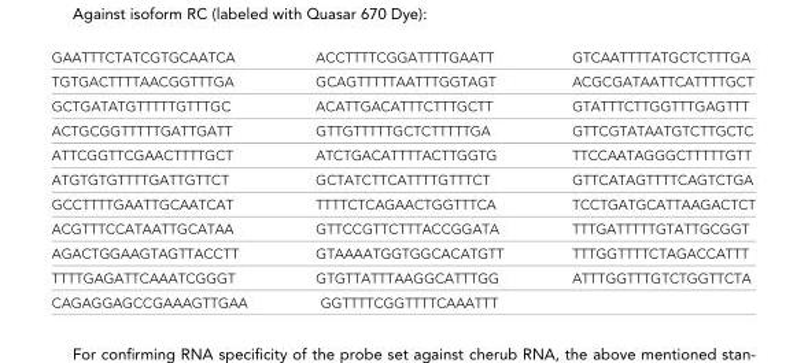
<table><tbody><tr><td>GAATTTCTATCGTGCAATCA</td><td>ACCTTTTCGGATTTTGAATT</td><td>GTCAATTTTATGCTCTTTGA</td></tr><tr><td>TGTGACTTTTAACGGTTTGA</td><td>GCAGTTTTTAATTTGGTAGT</td><td>ACGCGATAATTCATTTTGCT</td></tr><tr><td>GCTGATATGTTTTTGTTTGC</td><td>ACATTGACATTTCTTTGCTT</td><td>GTATTTCTTGGTTTGAGTTT</td></tr><tr><td>ACTGCGGTTTTTGATTGATT</td><td>GTTGTTTTTGCTCTTTTTGA</td><td>GTTCGTATAATGTCTTGCTC</td></tr><tr><td>ATTCGGTTCGAACTTTTGCT</td><td>ATCTGACATTTTACTTGGTG</td><td>TTCCAATAGGGCTTTTTGTT</td></tr><tr><td>ATGTGTGTTTTGATTGTTCT</td><td>GCTATCTTCATTTTGTTTCT</td><td>GTTCATAGTTTTCAGTCTGA</td></tr><tr><td>GCCTTTTGAATTGCAATCAT</td><td>TTTTCTCAGAACTGGTTTCA</td><td>TCCTGATGCATTAAGACTCT</td></tr><tr><td>ACGTTTCCATAATTGCATAA</td><td>GTTCCGTTCTTTACCGGATA</td><td>TTTGATTTTTGTATTGCGGT</td></tr><tr><td>AGACTGGAAGTAGTTACCTT</td><td>GTAAAATGGTGGCACATGTT</td><td>TTTGGTTTTCTAGACCATTT</td></tr><tr><td>TTTTGAGATTCAAATCGGGT</td><td>GTGTTATTTAAGGCATTTGG</td><td>ATTTGGTTTGTCTGGTTCTA</td></tr><tr><td>CAGAGGAGCCGAAAGTTGAA</td><td>GGTTTTCGGTTTTCAAATTT</td><td></td></tr></tbody></table>